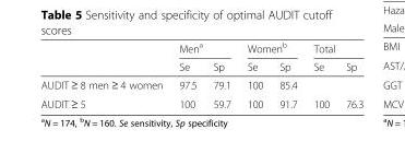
<table><thead><tr><td rowspan="2"></td><td colspan="2">Men<sup>a</sup></td><td colspan="2">Women<sup>b</sup></td><td colspan="2">Total</td></tr><tr><td>Se</td><td>Sp</td><td>Se</td><td>Sp</td><td>Se</td><td>Sp</td></tr></thead><tbody><tr><td>AUDIT ≥ 8 men ≥ 4 women</td><td>97.5</td><td>79.1</td><td>100</td><td>85.4</td><td></td><td></td></tr><tr><td>AUDIT ≥ 5</td><td>100</td><td>59.7</td><td>100</td><td>91.7</td><td>100</td><td>76.3</td></tr></tbody></table>